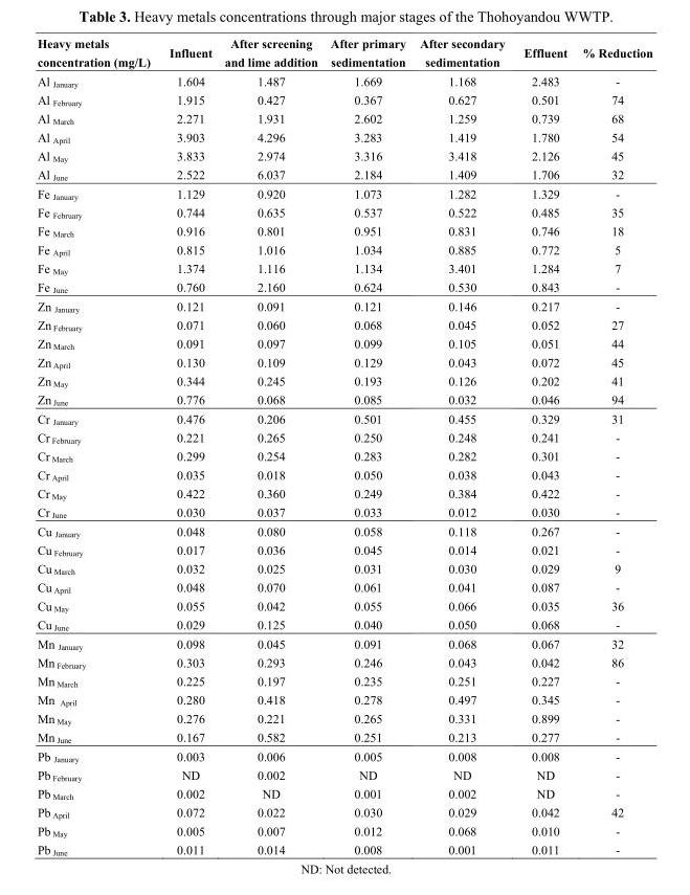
<table><thead><tr><td>Heavy metals concentration (mg/L)</td><td>Influent</td><td>After screening and lime addition</td><td>After primary sedimentation</td><td>After secondary sedimentation</td><td>Effluent</td><td>% Reduction</td></tr></thead><tbody><tr><td>Al <sub>January</sub></td><td>1.604</td><td>1.487</td><td>1.669</td><td>1.168</td><td>2.483</td><td>-</td></tr><tr><td>Al <sub>February</sub></td><td>1.915</td><td>0.427</td><td>0.367</td><td>0.627</td><td>0.501</td><td>74</td></tr><tr><td>Al <sub>March</sub></td><td>2.271</td><td>1.931</td><td>2.602</td><td>1.259</td><td>0.739</td><td>68</td></tr><tr><td>Al <sub>April</sub></td><td>3.903</td><td>4.296</td><td>3.283</td><td>1.419</td><td>1.780</td><td>54</td></tr><tr><td>Al <sub>May</sub></td><td>3.833</td><td>2.974</td><td>3.316</td><td>3.418</td><td>2.126</td><td>45</td></tr><tr><td>Al <sub>June</sub></td><td>2.522</td><td>6.037</td><td>2.184</td><td>1.409</td><td>1.706</td><td>32</td></tr><tr><td>Fe <sub>January</sub></td><td>1.129</td><td>0.920</td><td>1.073</td><td>1.282</td><td>1.329</td><td>-</td></tr><tr><td>Fe <sub>February</sub></td><td>0.744</td><td>0.635</td><td>0.537</td><td>0.522</td><td>0.485</td><td>35</td></tr><tr><td>Fe <sub>March</sub></td><td>0.916</td><td>0.801</td><td>0.951</td><td>0.831</td><td>0.746</td><td>18</td></tr><tr><td>Fe <sub>April</sub></td><td>0.815</td><td>1.016</td><td>1.034</td><td>0.885</td><td>0.772</td><td>5</td></tr><tr><td>Fe <sub>May</sub></td><td>1.374</td><td>1.116</td><td>1.134</td><td>3.401</td><td>1.284</td><td>7</td></tr><tr><td>Fe <sub>June</sub></td><td>0.760</td><td>2.160</td><td>0.624</td><td>0.530</td><td>0.843</td><td>-</td></tr><tr><td>Zn <sub>January</sub></td><td>0.121</td><td>0.091</td><td>0.121</td><td>0.146</td><td>0.217</td><td>-</td></tr><tr><td>Zn <sub>February</sub></td><td>0.071</td><td>0.060</td><td>0.068</td><td>0.045</td><td>0.052</td><td>27</td></tr><tr><td>Zn <sub>March</sub></td><td>0.091</td><td>0.097</td><td>0.099</td><td>0.105</td><td>0.051</td><td>44</td></tr><tr><td>Zn <sub>April</sub></td><td>0.130</td><td>0.109</td><td>0.129</td><td>0.043</td><td>0.072</td><td>45</td></tr><tr><td>Zn <sub>May</sub></td><td>0.344</td><td>0.245</td><td>0.193</td><td>0.126</td><td>0.202</td><td>41</td></tr><tr><td>Zn <sub>June</sub></td><td>0.776</td><td>0.068</td><td>0.085</td><td>0.032</td><td>0.046</td><td>94</td></tr><tr><td>Cr <sub>January</sub></td><td>0.476</td><td>0.206</td><td>0.501</td><td>0.455</td><td>0.329</td><td>31</td></tr><tr><td>Cr <sub>February</sub></td><td>0.221</td><td>0.265</td><td>0.250</td><td>0.248</td><td>0.241</td><td>-</td></tr><tr><td>Cr <sub>March</sub></td><td>0.299</td><td>0.254</td><td>0.283</td><td>0.282</td><td>0.301</td><td>-</td></tr><tr><td>Cr <sub>April</sub></td><td>0.035</td><td>0.018</td><td>0.050</td><td>0.038</td><td>0.043</td><td>-</td></tr><tr><td>Cr <sub>May</sub></td><td>0.422</td><td>0.360</td><td>0.249</td><td>0.384</td><td>0.422</td><td>-</td></tr><tr><td>Cr <sub>June</sub></td><td>0.030</td><td>0.037</td><td>0.033</td><td>0.012</td><td>0.030</td><td>-</td></tr><tr><td>Cu <sub>January</sub></td><td>0.048</td><td>0.080</td><td>0.058</td><td>0.118</td><td>0.267</td><td>-</td></tr><tr><td>Cu <sub>February</sub></td><td>0.017</td><td>0.036</td><td>0.045</td><td>0.014</td><td>0.021</td><td>-</td></tr><tr><td>Cu <sub>March</sub></td><td>0.032</td><td>0.025</td><td>0.031</td><td>0.030</td><td>0.029</td><td>9</td></tr><tr><td>Cu <sub>April</sub></td><td>0.048</td><td>0.070</td><td>0.061</td><td>0.041</td><td>0.087</td><td>-</td></tr><tr><td>Cu <sub>May</sub></td><td>0.055</td><td>0.042</td><td>0.055</td><td>0.066</td><td>0.035</td><td>36</td></tr><tr><td>Cu <sub>June</sub></td><td>0.029</td><td>0.125</td><td>0.040</td><td>0.050</td><td>0.068</td><td>-</td></tr><tr><td>Mn <sub>January</sub></td><td>0.098</td><td>0.045</td><td>0.091</td><td>0.068</td><td>0.067</td><td>32</td></tr><tr><td>Mn <sub>February</sub></td><td>0.303</td><td>0.293</td><td>0.246</td><td>0.043</td><td>0.042</td><td>86</td></tr><tr><td>Mn <sub>March</sub></td><td>0.225</td><td>0.197</td><td>0.235</td><td>0.251</td><td>0.227</td><td>-</td></tr><tr><td>Mn <sub>April</sub></td><td>0.280</td><td>0.418</td><td>0.278</td><td>0.497</td><td>0.345</td><td>-</td></tr><tr><td>Mn <sub>May</sub></td><td>0.276</td><td>0.221</td><td>0.265</td><td>0.331</td><td>0.899</td><td>-</td></tr><tr><td>Mn <sub>June</sub></td><td>0.167</td><td>0.582</td><td>0.251</td><td>0.213</td><td>0.277</td><td>-</td></tr><tr><td>Pb <sub>January</sub></td><td>0.003</td><td>0.006</td><td>0.005</td><td>0.008</td><td>0.008</td><td>-</td></tr><tr><td>Pb <sub>February</sub></td><td>ND</td><td>0.002</td><td>ND</td><td>ND</td><td>ND</td><td>-</td></tr><tr><td>Pb <sub>March</sub></td><td>0.002</td><td>ND</td><td>0.001</td><td>0.002</td><td>ND</td><td>-</td></tr><tr><td>Pb <sub>April</sub></td><td>0.072</td><td>0.022</td><td>0.030</td><td>0.029</td><td>0.042</td><td>42</td></tr><tr><td>Pb <sub>May</sub></td><td>0.005</td><td>0.007</td><td>0.012</td><td>0.068</td><td>0.010</td><td>-</td></tr><tr><td>Pb <sub>June</sub></td><td>0.011</td><td>0.014</td><td>0.008</td><td>0.001</td><td>0.011</td><td>-</td></tr></tbody></table>